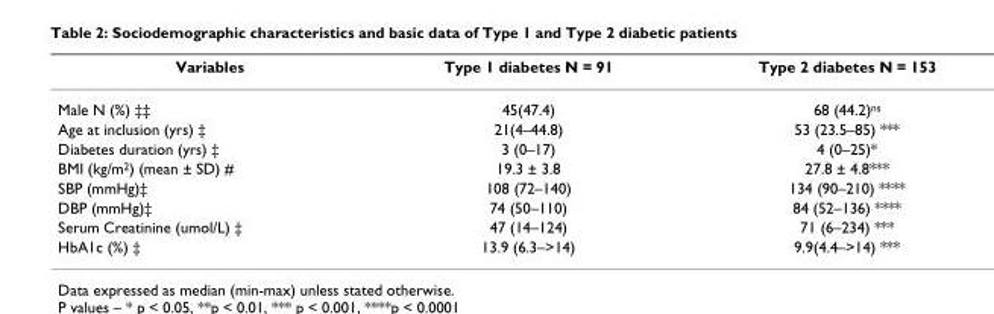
<table><thead><tr><td>Variables</td><td>Type 1 diabetes N = 91</td><td>Type 2 diabetes N = 153</td></tr></thead><tbody><tr><td>Male N (%) ‡‡</td><td>45(47.4)</td><td>68 (44.2)<sup>ns</sup></td></tr><tr><td>Age at inclusion (yrs) ‡</td><td>21(4–44.8)</td><td>53 (23.5–85) ***</td></tr><tr><td>Diabetes duration (yrs) ‡</td><td>3 (0–17)</td><td>4 (0–25)*</td></tr><tr><td>BMI (kg/m<sup>2</sup>) (mean ± SD) #</td><td>19.3 ± 3.8</td><td>27.8 ± 4.8***</td></tr><tr><td>SBP (mmHg)‡</td><td>108 (72–140)</td><td>134 (90–210) ****</td></tr><tr><td>DBP (mmHg)‡</td><td>74 (50–110)</td><td>84 (52–136) ****</td></tr><tr><td>Serum Creatinine (umol/L) ‡</td><td>47 (14–124)</td><td>71 (6–234) ***</td></tr><tr><td>HbA1c (%) ‡</td><td>13.9 (6.3–&gt;14)</td><td>9.9(4.4–&gt;14) ***</td></tr></tbody></table>